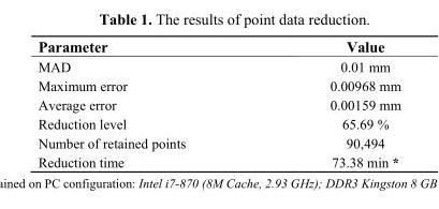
<table><thead><tr><td>Parameter</td><td>Value</td></tr></thead><tbody><tr><td>MAD</td><td>0.01 mm</td></tr><tr><td>Maximum error</td><td>0.00968 mm</td></tr><tr><td>Average error</td><td>0.00159 mm</td></tr><tr><td>Reduction level</td><td>65.69 %</td></tr><tr><td>Number of retained points</td><td>90,494</td></tr><tr><td>Reduction time</td><td>73.38 min *</td></tr></tbody></table>